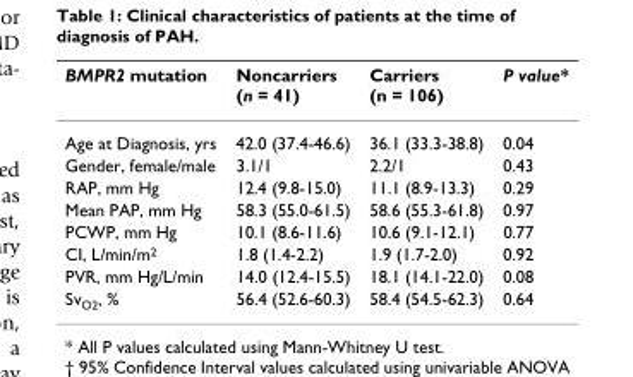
<table><thead><tr><td>BMPR2 mutation</td><td>Noncarriers (n = 41)</td><td>Carriers (n = 106)</td><td>P value*</td></tr></thead><tbody><tr><td>Age at Diagnosis, yrs</td><td>42.0 (37.4-46.6)</td><td>36.1 (33.3-38.8)</td><td>0.04</td></tr><tr><td>Gender, female/male</td><td>3.1/1</td><td>2.2/1</td><td>0.43</td></tr><tr><td>RAP, mm Hg</td><td>12.4 (9.8-15.0)</td><td>11.1 (8.9-13.3)</td><td>0.29</td></tr><tr><td>Mean PAP, mm Hg</td><td>58.3 (55.0-61.5)</td><td>58.6 (55.3-61.8)</td><td>0.97</td></tr><tr><td>PCWP, mm Hg</td><td>10.1 (8.6-11.6)</td><td>10.6 (9.1-12.1)</td><td>0.77</td></tr><tr><td>CI, L/min/m<sup>2</sup></td><td>1.8 (1.4-2.2)</td><td>1.9 (1.7-2.0)</td><td>0.92</td></tr><tr><td>PVR, mm Hg/L/min</td><td>14.0 (12.4-15.5)</td><td>18.1 (14.1-22.0)</td><td>0.08</td></tr><tr><td>Sv<sub>O2</sub>, %</td><td>56.4 (52.6-60.3)</td><td>58.4 (54.5-62.3)</td><td>0.64</td></tr></tbody></table>